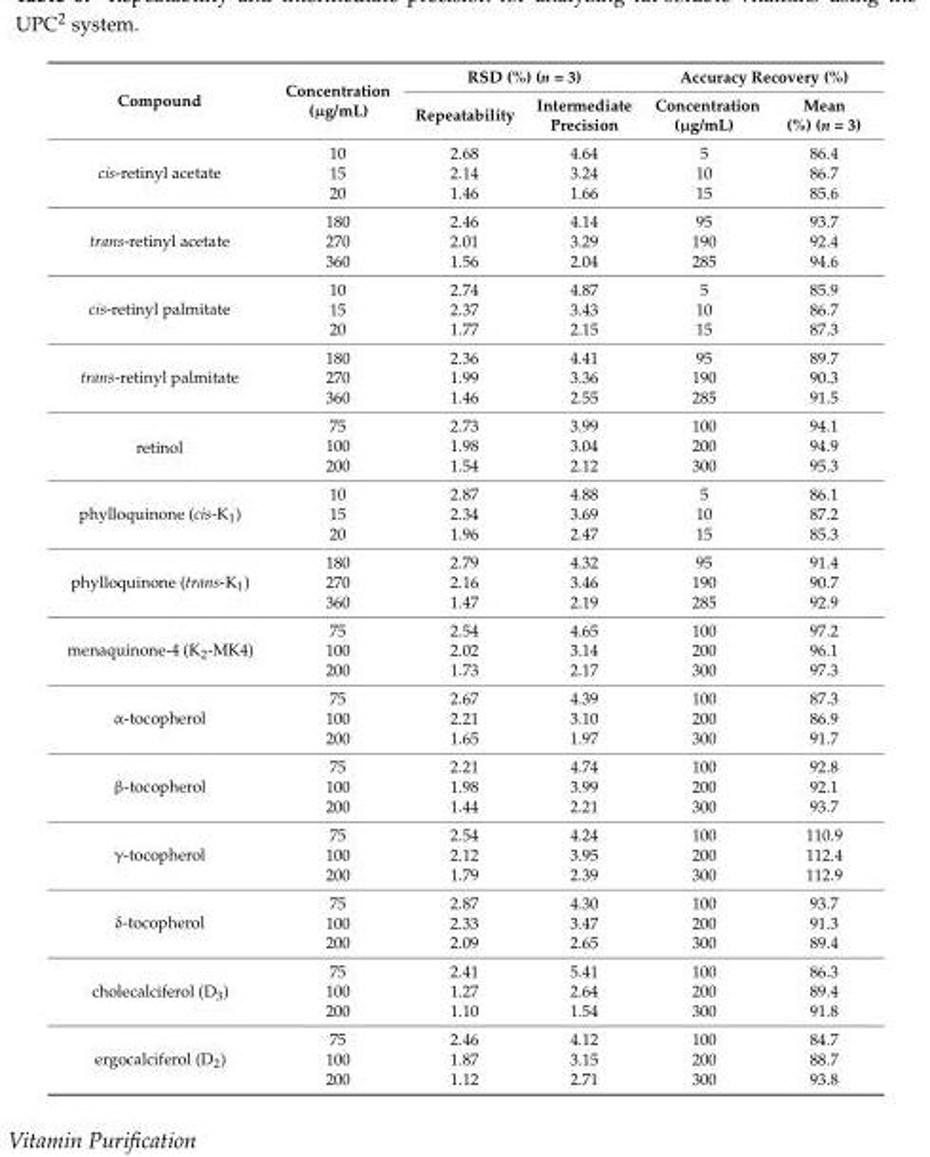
<table><thead><tr><td rowspan="2">Compound</td><td rowspan="2">Concentration (µg/mL)</td><td colspan="2">RSD (%) (n = 3)</td><td colspan="2">Accuracy Recovery (%)</td></tr><tr><td>Repeatability</td><td>Intermediate Precision</td><td>Concentration (µg/mL)</td><td>Mean (%) (n = 3)</td></tr></thead><tbody><tr><td rowspan="3">cis-retinyl acetate</td><td>10</td><td>2.68</td><td>4.64</td><td>5</td><td>86.4</td></tr><tr><td>15</td><td>2.14</td><td>3.24</td><td>10</td><td>86.7</td></tr><tr><td>20</td><td>1.46</td><td>1.66</td><td>15</td><td>85.6</td></tr><tr><td rowspan="3">trans-retinyl acetate</td><td>180</td><td>2.46</td><td>4.14</td><td>95</td><td>93.7</td></tr><tr><td>270</td><td>2.01</td><td>3.29</td><td>190</td><td>92.4</td></tr><tr><td>360</td><td>1.56</td><td>2.04</td><td>285</td><td>94.6</td></tr><tr><td rowspan="3">cis-retinyl palmitate</td><td>10</td><td>2.74</td><td>4.87</td><td>5</td><td>85.9</td></tr><tr><td>15</td><td>2.37</td><td>3.43</td><td>10</td><td>86.7</td></tr><tr><td>20</td><td>1.77</td><td>2.15</td><td>15</td><td>87.3</td></tr><tr><td rowspan="3">trans-retinyl palmitate</td><td>180</td><td>2.36</td><td>4.41</td><td>95</td><td>89.7</td></tr><tr><td>270</td><td>1.99</td><td>3.36</td><td>190</td><td>90.3</td></tr><tr><td>360</td><td>1.46</td><td>2.55</td><td>285</td><td>91.5</td></tr><tr><td rowspan="3">retinol</td><td>75</td><td>2.73</td><td>3.99</td><td>100</td><td>94.1</td></tr><tr><td>100</td><td>1.98</td><td>3.04</td><td>200</td><td>94.9</td></tr><tr><td>200</td><td>1.54</td><td>2.12</td><td>300</td><td>95.3</td></tr><tr><td rowspan="3">phylloquinone (cis-K<sub>1</sub>)</td><td>10</td><td>2.87</td><td>4.88</td><td>5</td><td>86.1</td></tr><tr><td>15</td><td>2.34</td><td>3.69</td><td>10</td><td>87.2</td></tr><tr><td>20</td><td>1.96</td><td>2.47</td><td>15</td><td>85.3</td></tr><tr><td rowspan="3">phylloquinone (trans-K<sub>1</sub>)</td><td>180</td><td>2.79</td><td>4.32</td><td>95</td><td>91.4</td></tr><tr><td>270</td><td>2.16</td><td>3.46</td><td>190</td><td>90.7</td></tr><tr><td>360</td><td>1.47</td><td>2.19</td><td>285</td><td>92.9</td></tr><tr><td rowspan="3">menaquinone-4 (K<sub>2</sub>-MK4)</td><td>75</td><td>2.54</td><td>4.65</td><td>100</td><td>97.2</td></tr><tr><td>100</td><td>2.02</td><td>3.14</td><td>200</td><td>96.1</td></tr><tr><td>200</td><td>1.73</td><td>2.17</td><td>300</td><td>97.3</td></tr><tr><td rowspan="3">α-tocopherol</td><td>75</td><td>2.67</td><td>4.39</td><td>100</td><td>87.3</td></tr><tr><td>100</td><td>2.21</td><td>3.10</td><td>200</td><td>86.9</td></tr><tr><td>200</td><td>1.65</td><td>1.97</td><td>300</td><td>91.7</td></tr><tr><td rowspan="3">β-tocopherol</td><td>75</td><td>2.21</td><td>4.74</td><td>100</td><td>92.8</td></tr><tr><td>100</td><td>1.98</td><td>3.99</td><td>200</td><td>92.1</td></tr><tr><td>200</td><td>1.44</td><td>2.21</td><td>300</td><td>93.7</td></tr><tr><td rowspan="3">γ-tocopherol</td><td>75</td><td>2.54</td><td>4.24</td><td>100</td><td>110.9</td></tr><tr><td>100</td><td>2.12</td><td>3.95</td><td>200</td><td>112.4</td></tr><tr><td>200</td><td>1.79</td><td>2.39</td><td>300</td><td>112.9</td></tr><tr><td rowspan="3">δ-tocopherol</td><td>75</td><td>2.87</td><td>4.30</td><td>100</td><td>93.7</td></tr><tr><td>100</td><td>2.33</td><td>3.47</td><td>200</td><td>91.3</td></tr><tr><td>200</td><td>2.09</td><td>2.65</td><td>300</td><td>89.4</td></tr><tr><td rowspan="3">cholecalciferol (D<sub>3</sub>)</td><td>75</td><td>2.41</td><td>5.41</td><td>100</td><td>86.3</td></tr><tr><td>100</td><td>1.27</td><td>2.64</td><td>200</td><td>89.4</td></tr><tr><td>200</td><td>1.10</td><td>1.54</td><td>300</td><td>91.8</td></tr><tr><td rowspan="3">ergocalciferol (D<sub>2</sub>)</td><td>75</td><td>2.46</td><td>4.12</td><td>100</td><td>84.7</td></tr><tr><td>100</td><td>1.87</td><td>3.15</td><td>200</td><td>88.7</td></tr><tr><td>200</td><td>1.12</td><td>2.71</td><td>300</td><td>93.8</td></tr></tbody></table>